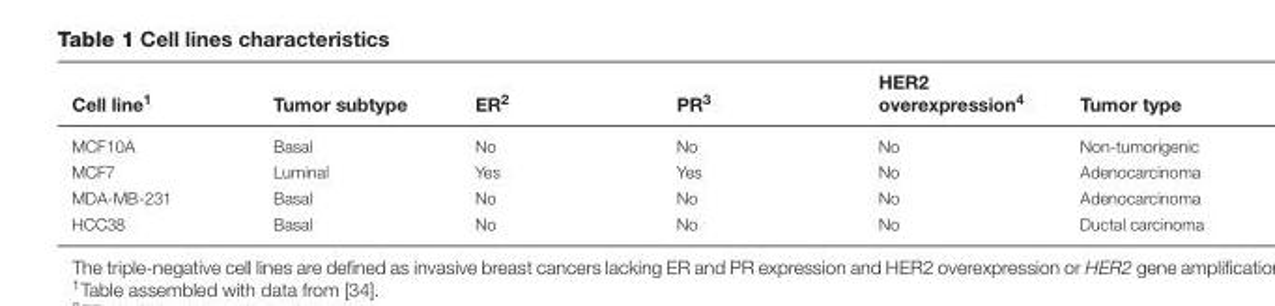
<table><thead><tr><td>Cell line<sup>1</sup></td><td>Tumor subtype</td><td>ER<sup>2</sup></td><td>PR<sup>3</sup></td><td>HER2 overexpression<sup>4</sup></td><td>Tumor type</td></tr></thead><tbody><tr><td>MCF10A</td><td>Basal</td><td>No</td><td>No</td><td>No</td><td>Non-tumorigenic</td></tr><tr><td>MCF7</td><td>Luminal</td><td>Yes</td><td>Yes</td><td>No</td><td>Adenocarcinoma</td></tr><tr><td>MDA-MB-231</td><td>Basal</td><td>No</td><td>No</td><td>No</td><td>Adenocarcinoma</td></tr><tr><td>HCC38</td><td>Basal</td><td>No</td><td>No</td><td>No</td><td>Ductal carcinoma</td></tr></tbody></table>